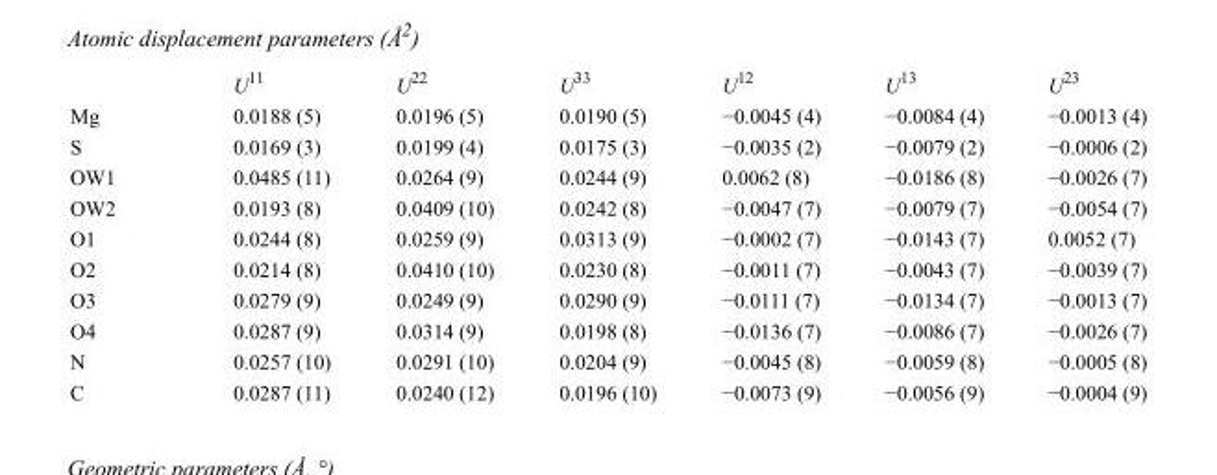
<table><thead><tr><td></td><td>U<sup>11</sup></td><td>U<sup>22</sup></td><td>U<sup>33</sup></td><td>U<sup>12</sup></td><td>U<sup>13</sup></td><td>U<sup>23</sup></td></tr></thead><tbody><tr><td>Mg</td><td>0.0188 (5)</td><td>0.0196 (5)</td><td>0.0190 (5)</td><td>−0.0045 (4)</td><td>−0.0084 (4)</td><td>−0.0013 (4)</td></tr><tr><td>S</td><td>0.0169 (3)</td><td>0.0199 (4)</td><td>0.0175 (3)</td><td>−0.0035 (2)</td><td>−0.0079 (2)</td><td>−0.0006 (2)</td></tr><tr><td>OW1</td><td>0.0485 (11)</td><td>0.0264 (9)</td><td>0.0244 (9)</td><td>0.0062 (8)</td><td>−0.0186 (8)</td><td>−0.0026 (7)</td></tr><tr><td>OW2</td><td>0.0193 (8)</td><td>0.0409 (10)</td><td>0.0242 (8)</td><td>−0.0047 (7)</td><td>−0.0079 (7)</td><td>−0.0054 (7)</td></tr><tr><td>O1</td><td>0.0244 (8)</td><td>0.0259 (9)</td><td>0.0313 (9)</td><td>−0.0002 (7)</td><td>−0.0143 (7)</td><td>0.0052 (7)</td></tr><tr><td>O2</td><td>0.0214 (8)</td><td>0.0410 (10)</td><td>0.0230 (8)</td><td>−0.0011 (7)</td><td>−0.0043 (7)</td><td>−0.0039 (7)</td></tr><tr><td>O3</td><td>0.0279 (9)</td><td>0.0249 (9)</td><td>0.0290 (9)</td><td>−0.0111 (7)</td><td>−0.0134 (7)</td><td>−0.0013 (7)</td></tr><tr><td>O4</td><td>0.0287 (9)</td><td>0.0314 (9)</td><td>0.0198 (8)</td><td>−0.0136 (7)</td><td>−0.0086 (7)</td><td>−0.0026 (7)</td></tr><tr><td>N</td><td>0.0257 (10)</td><td>0.0291 (10)</td><td>0.0204 (9)</td><td>−0.0045 (8)</td><td>−0.0059 (8)</td><td>−0.0005 (8)</td></tr><tr><td>C</td><td>0.0287 (11)</td><td>0.0240 (12)</td><td>0.0196 (10)</td><td>−0.0073 (9)</td><td>−0.0056 (9)</td><td>−0.0004 (9)</td></tr></tbody></table>